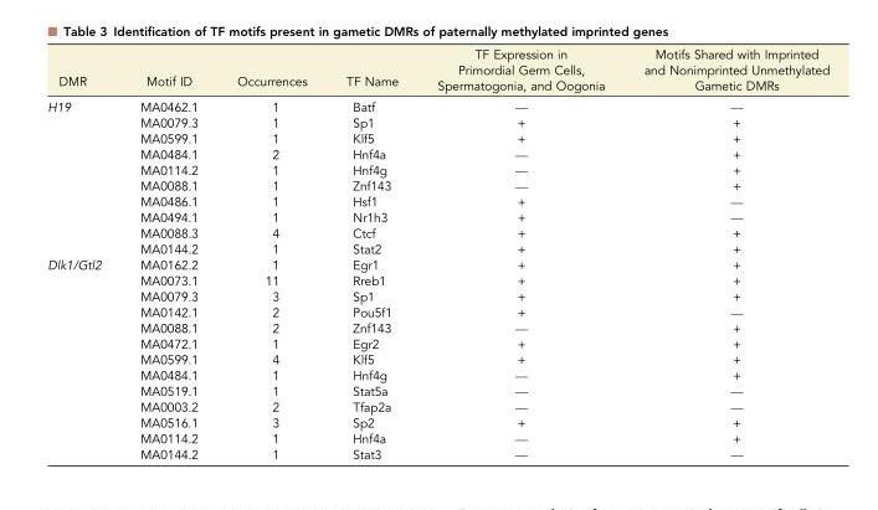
<table><thead><tr><td>DMR</td><td>Motif ID</td><td>Occurrences</td><td>TF Name</td><td>TF Expression in Primordial Germ Cells, Spermatogonia, and Oogonia</td><td>Motifs Shared with Imprinted and Nonimprinted Unmethylated Gametic DMRs</td></tr></thead><tbody><tr><td rowspan="10">H19</td><td>MA0462.1</td><td>1</td><td>Batf</td><td>—</td><td>—</td></tr><tr><td>MA0079.3</td><td>1</td><td>Sp1</td><td>+</td><td>+</td></tr><tr><td>MA0599.1</td><td>1</td><td>Klf5</td><td>+</td><td>+</td></tr><tr><td>MA0484.1</td><td>2</td><td>Hnf4a</td><td>—</td><td>+</td></tr><tr><td>MA0114.2</td><td>1</td><td>Hnf4g</td><td>—</td><td>+</td></tr><tr><td>MA0088.1</td><td>1</td><td>Znf143</td><td>—</td><td>+</td></tr><tr><td>MA0486.1</td><td>1</td><td>Hsf1</td><td>+</td><td>—</td></tr><tr><td>MA0494.1</td><td>1</td><td>Nr1h3</td><td>+</td><td>—</td></tr><tr><td>MA0088.3</td><td>4</td><td>Ctcf</td><td>+</td><td>+</td></tr><tr><td>MA0144.2</td><td>1</td><td>Stat2</td><td>+</td><td>+</td></tr><tr><td rowspan="13">Dlk1/Gtl2</td><td>MA0162.2</td><td>1</td><td>Egr1</td><td>+</td><td>+</td></tr><tr><td>MA0073.1</td><td>11</td><td>Rreb1</td><td>+</td><td>+</td></tr><tr><td>MA0079.3</td><td>3</td><td>Sp1</td><td>+</td><td>+</td></tr><tr><td>MA0142.1</td><td>2</td><td>Pou5f1</td><td>+</td><td>—</td></tr><tr><td>MA0088.1</td><td>2</td><td>Znf143</td><td>—</td><td>+</td></tr><tr><td>MA0472.1</td><td>1</td><td>Egr2</td><td>+</td><td>+</td></tr><tr><td>MA0599.1</td><td>4</td><td>Klf5</td><td>+</td><td>+</td></tr><tr><td>MA0484.1</td><td>1</td><td>Hnf4g</td><td>—</td><td>+</td></tr><tr><td>MA0519.1</td><td>1</td><td>Stat5a</td><td>—</td><td>—</td></tr><tr><td>MA0003.2</td><td>2</td><td>Tfap2a</td><td>—</td><td>—</td></tr><tr><td>MA0516.1</td><td>3</td><td>Sp2</td><td>+</td><td>+</td></tr><tr><td>MA0114.2</td><td>1</td><td>Hnf4a</td><td>—</td><td>+</td></tr><tr><td>MA0144.2</td><td>1</td><td>Stat3</td><td>—</td><td>—</td></tr></tbody></table>